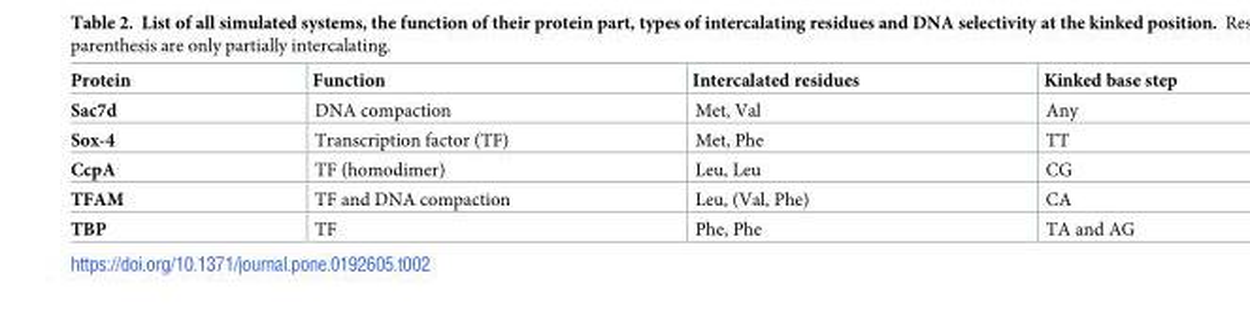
<table><thead><tr><td>Protein</td><td>Function</td><td>Intercalated residues</td><td>Kinked base step</td></tr></thead><tbody><tr><td>Sac7d</td><td>DNA compaction</td><td>Met, Val</td><td>Any</td></tr><tr><td>Sox-4</td><td>Transcription factor (TF)</td><td>Met, Phe</td><td>TT</td></tr><tr><td>CcpA</td><td>TF (homodimer)</td><td>Leu, Leu</td><td>CG</td></tr><tr><td>TFAM</td><td>TF and DNA compaction</td><td>Leu, (Val, Phe)</td><td>CA</td></tr><tr><td>TBP</td><td>TF</td><td>Phe, Phe</td><td>TA and AG</td></tr></tbody></table>